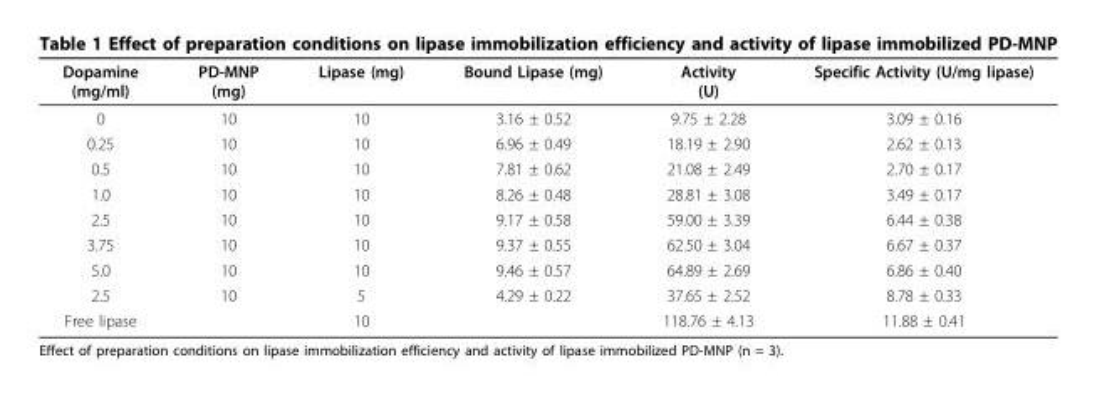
<table><thead><tr><td>Dopamine (mg/ml)</td><td>PD-MNP (mg)</td><td>Lipase (mg)</td><td>Bound Lipase (mg)</td><td>Activity (U)</td><td>Specific Activity (U/mg lipase)</td></tr></thead><tbody><tr><td>0</td><td>10</td><td>10</td><td>3.16 ± 0.52</td><td>9.75 ± 2.28</td><td>3.09 ± 0.16</td></tr><tr><td>0.25</td><td>10</td><td>10</td><td>6.96 ± 0.49</td><td>18.19 ± 2.90</td><td>2.62 ± 0.13</td></tr><tr><td>0.5</td><td>10</td><td>10</td><td>7.81 ± 0.62</td><td>21.08 ± 2.49</td><td>2.70 ± 0.17</td></tr><tr><td>1.0</td><td>10</td><td>10</td><td>8.26 ± 0.48</td><td>28.81 ± 3.08</td><td>3.49 ± 0.17</td></tr><tr><td>2.5</td><td>10</td><td>10</td><td>9.17 ± 0.58</td><td>59.00 ± 3.39</td><td>6.44 ± 0.38</td></tr><tr><td>3.75</td><td>10</td><td>10</td><td>9.37 ± 0.55</td><td>62.50 ± 3.04</td><td>6.67 ± 0.37</td></tr><tr><td>5.0</td><td>10</td><td>10</td><td>9.46 ± 0.57</td><td>64.89 ± 2.69</td><td>6.86 ± 0.40</td></tr><tr><td>2.5</td><td>10</td><td>5</td><td>4.29 ± 0.22</td><td>37.65 ± 2.52</td><td>8.78 ± 0.33</td></tr><tr><td>Free lipase</td><td></td><td>10</td><td></td><td>118.76 ± 4.13</td><td>11.88 ± 0.41</td></tr></tbody></table>